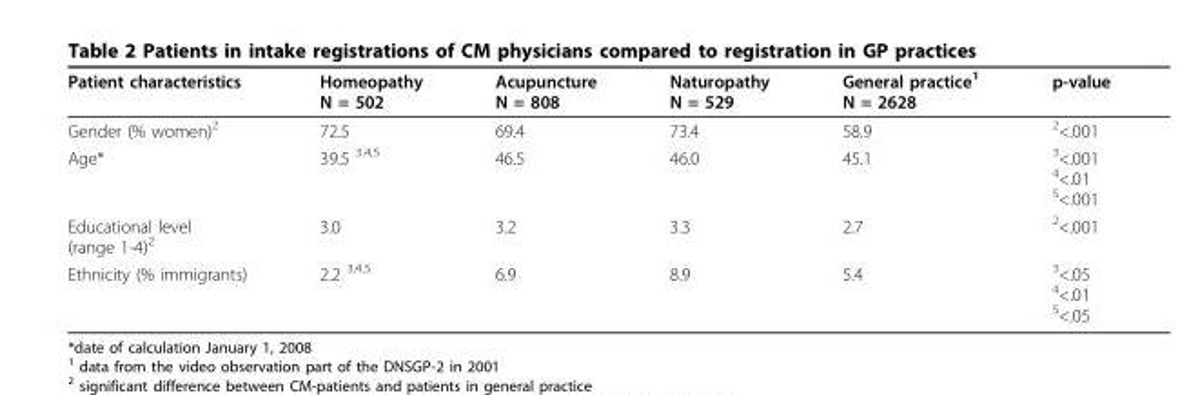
<table><thead><tr><td>Patient characteristics</td><td>Homeopathy N = 502</td><td>Acupuncture N = 808</td><td>Naturopathy N = 529</td><td>General practice<sup>1</sup> N = 2628</td><td>p-value</td></tr></thead><tbody><tr><td>Gender (% women)<sup>2</sup></td><td>72.5</td><td>69.4</td><td>73.4</td><td>58.9</td><td><sup>2</sup>&lt;.001</td></tr><tr><td>Age*</td><td>39.5 <sup>3,4,5</sup></td><td>46.5</td><td>46.0</td><td>45.1</td><td><sup>3</sup>&lt;.001 <sup>4</sup>&lt;.01 <sup>5</sup>&lt;.001</td></tr><tr><td>Educational level (range 1-4)<sup>2</sup></td><td>3.0</td><td>3.2</td><td>3.3</td><td>2.7</td><td><sup>2</sup>&lt;.001</td></tr><tr><td>Ethnicity (% immigrants)</td><td>2.2 <sup>3,4,5</sup></td><td>6.9</td><td>8.9</td><td>5.4</td><td><sup>3</sup>&lt;.05 <sup>4</sup>&lt;.01 <sup>5</sup>&lt;.05</td></tr></tbody></table>